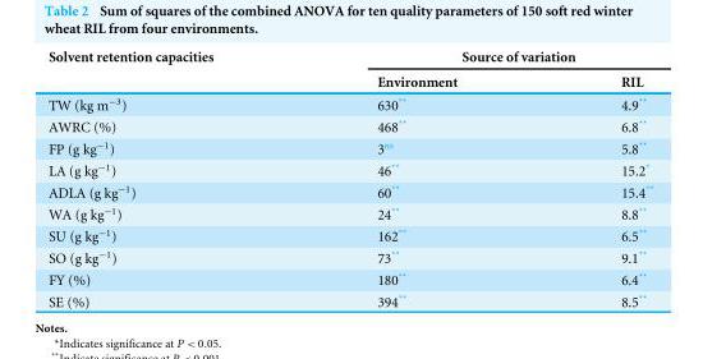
<table><thead><tr><td rowspan="2">Solvent retention capacities</td><td colspan="2">Source of variation</td></tr><tr><td>Environment</td><td>RIL</td></tr></thead><tbody><tr><td>TW (kg m<sup>−3</sup>)</td><td>630**</td><td>4.9**</td></tr><tr><td>AWRC (%)</td><td>468**</td><td>6.8**</td></tr><tr><td>FP (g kg<sup>−1</sup>)</td><td>3<sup>ns</sup></td><td>5.8**</td></tr><tr><td>LA (g kg<sup>−1</sup>)</td><td>46**</td><td>15.2*</td></tr><tr><td>ADLA (g kg<sup>−1</sup>)</td><td>60**</td><td>15.4**</td></tr><tr><td>WA (g kg<sup>−1</sup>)</td><td>24**</td><td>8.8**</td></tr><tr><td>SU (g kg<sup>−1</sup>)</td><td>162**</td><td>6.5**</td></tr><tr><td>SO (g kg<sup>−1</sup>)</td><td>73**</td><td>9.1**</td></tr><tr><td>FY (%)</td><td>180**</td><td>6.4**</td></tr><tr><td>SE (%)</td><td>394**</td><td>8.5**</td></tr></tbody></table>